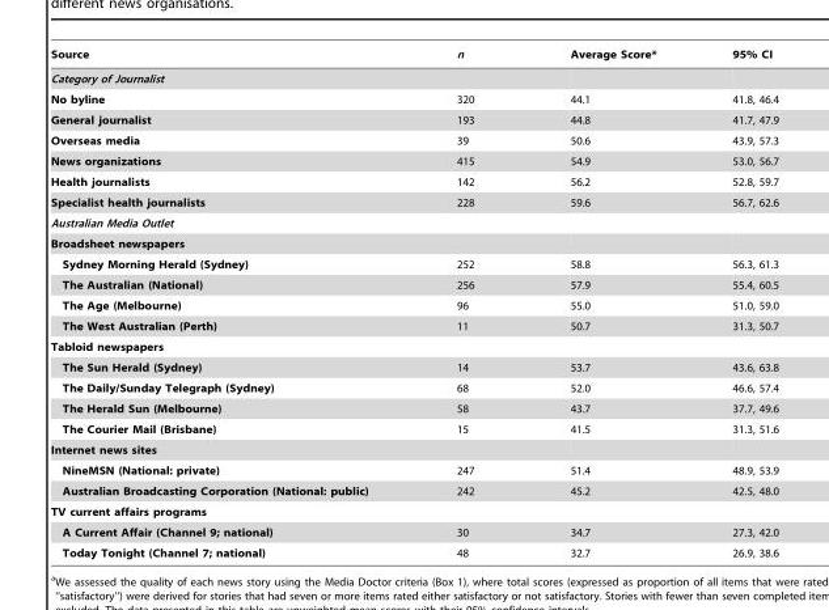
<table><thead><tr><td>Source</td><td>n</td><td>Average Score*</td><td>95% CI</td></tr></thead><tbody><tr><td colspan="4">Category of Journalist</td></tr><tr><td>No byline</td><td>320</td><td>44.1</td><td>41.8, 46.4</td></tr><tr><td>General journalist</td><td>193</td><td>44.8</td><td>41.7, 47.9</td></tr><tr><td>Overseas media</td><td>39</td><td>50.6</td><td>43.9, 57.3</td></tr><tr><td>News organizations</td><td>415</td><td>54.9</td><td>53.0, 56.7</td></tr><tr><td>Health journalists</td><td>142</td><td>56.2</td><td>52.8, 59.7</td></tr><tr><td>Specialist health journalists</td><td>228</td><td>59.6</td><td>56.7, 62.6</td></tr><tr><td colspan="4">Australian Media Outlet</td></tr><tr><td colspan="4">Broadsheet newspapers</td></tr><tr><td>Sydney Morning Herald (Sydney)</td><td>252</td><td>58.8</td><td>56.3, 61.3</td></tr><tr><td>The Australian (National)</td><td>256</td><td>57.9</td><td>55.4, 60.5</td></tr><tr><td>The Age (Melbourne)</td><td>96</td><td>55.0</td><td>51.0, 59.0</td></tr><tr><td>The West Australian (Perth)</td><td>11</td><td>50.7</td><td>31.3, 50.7</td></tr><tr><td colspan="4">Tabloid newspapers</td></tr><tr><td>The Sun Herald (Sydney)</td><td>14</td><td>53.7</td><td>43.6, 63.8</td></tr><tr><td>The Daily/Sunday Telegraph (Sydney)</td><td>68</td><td>52.0</td><td>46.6, 57.4</td></tr><tr><td>The Herald Sun (Melbourne)</td><td>58</td><td>43.7</td><td>37.7, 49.6</td></tr><tr><td>The Courier Mail (Brisbane)</td><td>15</td><td>41.5</td><td>31.3, 51.6</td></tr><tr><td colspan="4">Internet news sites</td></tr><tr><td>NineMSN (National: private)</td><td>247</td><td>51.4</td><td>48.9, 53.9</td></tr><tr><td>Australian Broadcasting Corporation (National: public)</td><td>242</td><td>45.2</td><td>42.5, 48.0</td></tr><tr><td colspan="4">TV current affairs programs</td></tr><tr><td>A Current Affair (Channel 9; national)</td><td>30</td><td>34.7</td><td>27.3, 42.0</td></tr><tr><td>Today Tonight (Channel 7; national)</td><td>48</td><td>32.7</td><td>26.9, 38.6</td></tr></tbody></table>